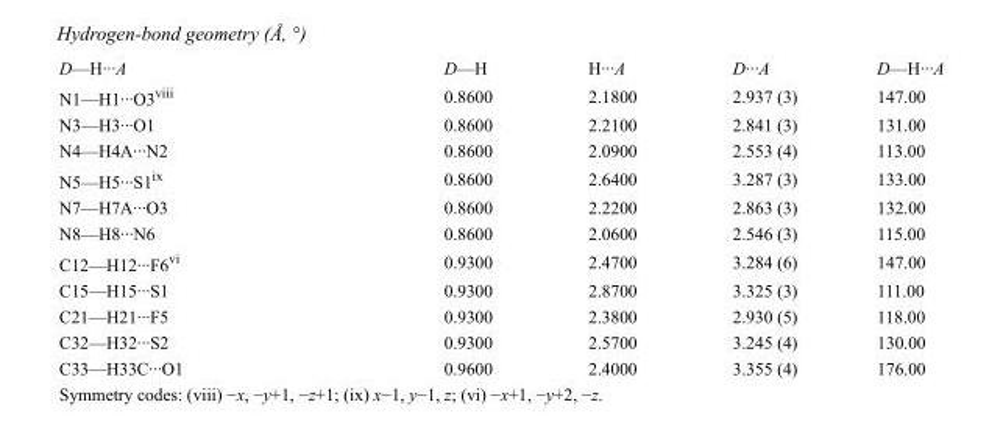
<table><tbody><tr><td>D—H···A</td><td>D—H</td><td>H···A</td><td>D···A</td><td>D—H···A</td></tr><tr><td>N1—H1···O3<sup>viii</sup></td><td>0.8600</td><td>2.1800</td><td>2.937 (3)</td><td>147.00</td></tr><tr><td>N3—H3···O1</td><td>0.8600</td><td>2.2100</td><td>2.841 (3)</td><td>131.00</td></tr><tr><td>N4—H4A···N2</td><td>0.8600</td><td>2.0900</td><td>2.553 (4)</td><td>113.00</td></tr><tr><td>N5—H5···S1<sup>ix</sup></td><td>0.8600</td><td>2.6400</td><td>3.287 (3)</td><td>133.00</td></tr><tr><td>N7—H7A···O3</td><td>0.8600</td><td>2.2200</td><td>2.863 (3)</td><td>132.00</td></tr><tr><td>N8—H8···N6</td><td>0.8600</td><td>2.0600</td><td>2.546 (3)</td><td>115.00</td></tr><tr><td>C12—H12···F6<sup>vi</sup></td><td>0.9300</td><td>2.4700</td><td>3.284 (6)</td><td>147.00</td></tr><tr><td>C15—H15···S1</td><td>0.9300</td><td>2.8700</td><td>3.325 (3)</td><td>111.00</td></tr><tr><td>C21—H21···F5</td><td>0.9300</td><td>2.3800</td><td>2.930 (5)</td><td>118.00</td></tr><tr><td>C32—H32···S2</td><td>0.9300</td><td>2.5700</td><td>3.245 (4)</td><td>130.00</td></tr><tr><td>C33—H33C···O1</td><td>0.9600</td><td>2.4000</td><td>3.355 (4)</td><td>176.00</td></tr></tbody></table>